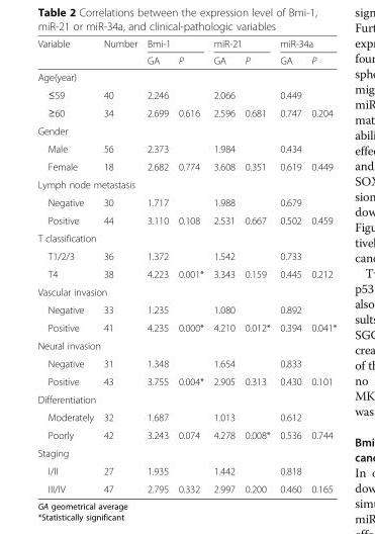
<table><thead><tr><td rowspan="2">Variable</td><td rowspan="2">Number</td><td colspan="2">Bmi-1</td><td colspan="2">miR-21</td><td colspan="2">miR-34a</td></tr><tr><td>GA</td><td>P</td><td>GA</td><td>P</td><td>GA</td><td>P</td></tr></thead><tbody><tr><td colspan="8">Age(year)</td></tr><tr><td>≤59</td><td>40</td><td>2.246</td><td></td><td>2.066</td><td></td><td>0.449</td><td></td></tr><tr><td>≥60</td><td>34</td><td>2.699</td><td>0.616</td><td>2.596</td><td>0.681</td><td>0.747</td><td>0.204</td></tr><tr><td colspan="8">Gender</td></tr><tr><td>Male</td><td>56</td><td>2.373</td><td></td><td>1.984</td><td></td><td>0.434</td><td></td></tr><tr><td>Female</td><td>18</td><td>2.682</td><td>0.774</td><td>3.608</td><td>0.351</td><td>0.619</td><td>0.449</td></tr><tr><td colspan="8">Lymph node metastasis</td></tr><tr><td>Negative</td><td>30</td><td>1.717</td><td></td><td>1.988</td><td></td><td>0.679</td><td></td></tr><tr><td>Positive</td><td>44</td><td>3.110</td><td>0.108</td><td>2.531</td><td>0.667</td><td>0.502</td><td>0.459</td></tr><tr><td colspan="8">T classification</td></tr><tr><td>T1/2/3</td><td>36</td><td>1.372</td><td></td><td>1.542</td><td></td><td>0.733</td><td></td></tr><tr><td>T4</td><td>38</td><td>4.223</td><td>0.001*</td><td>3.343</td><td>0.159</td><td>0.445</td><td>0.212</td></tr><tr><td colspan="8">Vascular invasion</td></tr><tr><td>Negative</td><td>33</td><td>1.235</td><td></td><td>1.080</td><td></td><td>0.892</td><td></td></tr><tr><td>Positive</td><td>41</td><td>4.235</td><td>0.000*</td><td>4.210</td><td>0.012*</td><td>0.394</td><td>0.041*</td></tr><tr><td colspan="8">Neural invasion</td></tr><tr><td>Negative</td><td>31</td><td>1.348</td><td></td><td>1.654</td><td></td><td>0.833</td><td></td></tr><tr><td>Positive</td><td>43</td><td>3.755</td><td>0.004*</td><td>2.905</td><td>0.313</td><td>0.430</td><td>0.101</td></tr><tr><td colspan="8">Differentiation</td></tr><tr><td>Moderately</td><td>32</td><td>1.687</td><td></td><td>1.013</td><td></td><td>0.612</td><td></td></tr><tr><td>Poorly</td><td>42</td><td>3.243</td><td>0.074</td><td>4.278</td><td>0.008*</td><td>0.536</td><td>0.744</td></tr><tr><td colspan="8">Staging</td></tr><tr><td>I/II</td><td>27</td><td>1.935</td><td></td><td>1.442</td><td></td><td>0.818</td><td></td></tr><tr><td>III/IV</td><td>47</td><td>2.795</td><td>0.332</td><td>2.997</td><td>0.200</td><td>0.460</td><td>0.165</td></tr></tbody></table>